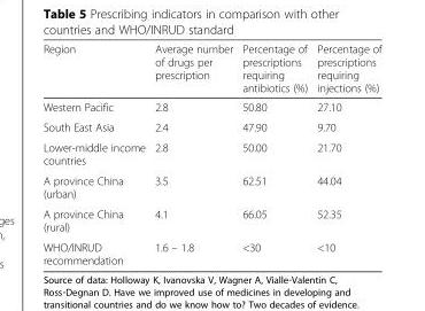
<table><thead><tr><td>Region</td><td>Average number of drugs per prescription</td><td>Percentage of prescriptions requiring antibiotics (%)</td><td>Percentage of prescriptions requiring injections (%)</td></tr></thead><tbody><tr><td>Western Pacific</td><td>2.8</td><td>50.80</td><td>27.10</td></tr><tr><td>South East Asia</td><td>2.4</td><td>47.90</td><td>9.70</td></tr><tr><td>Lower-middle income countries</td><td>2.8</td><td>50.00</td><td>21.70</td></tr><tr><td>A province China (urban)</td><td>3.5</td><td>62.51</td><td>44.04</td></tr><tr><td>A province China (rural)</td><td>4.1</td><td>66.05</td><td>52.35</td></tr><tr><td>WHO/INRUD recommendation</td><td>1.6 – 1.8</td><td>&lt;30</td><td>&lt;10</td></tr></tbody></table>